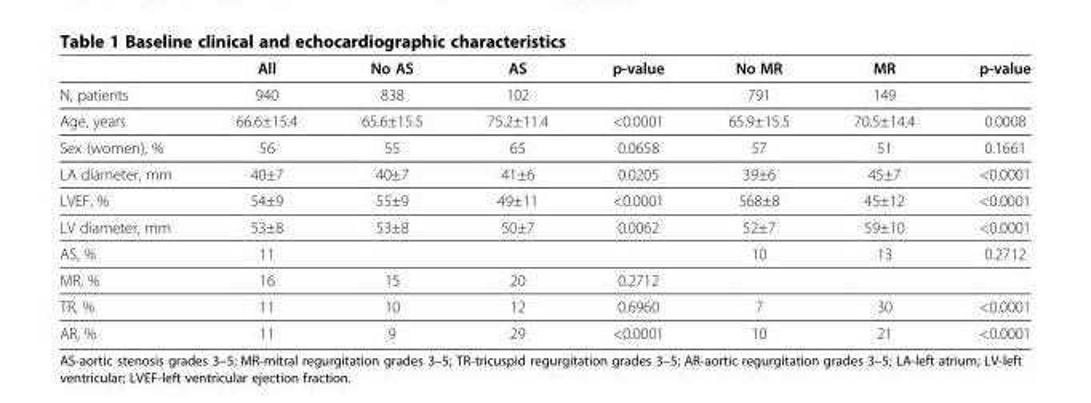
<table><thead><tr><td></td><td>All</td><td>No AS</td><td>AS</td><td>p-value</td><td>No MR</td><td>MR</td><td>p-value</td></tr></thead><tbody><tr><td>N, patients</td><td>940</td><td>838</td><td>102</td><td></td><td>791</td><td>149</td><td></td></tr><tr><td>Age, years</td><td>66.6±15.4</td><td>65.6±15.5</td><td>75.2±11.4</td><td>&lt;0.0001</td><td>65.9±15.5</td><td>70.5±14.4</td><td>0.0008</td></tr><tr><td>Sex (women), %</td><td>56</td><td>55</td><td>65</td><td>0.0658</td><td>57</td><td>51</td><td>0.1661</td></tr><tr><td>LA diameter, mm</td><td>40±7</td><td>40±7</td><td>41±6</td><td>0.0205</td><td>39±6</td><td>45±7</td><td>&lt;0.0001</td></tr><tr><td>LVEF, %</td><td>54±9</td><td>55±9</td><td>49±11</td><td>&lt;0.0001</td><td>568±8</td><td>45±12</td><td>&lt;0.0001</td></tr><tr><td>LV diameter, mm</td><td>53±8</td><td>53±8</td><td>50±7</td><td>0.0062</td><td>52±7</td><td>59±10</td><td>&lt;0.0001</td></tr><tr><td>AS, %</td><td>11</td><td></td><td></td><td></td><td>10</td><td>13</td><td>0.2712</td></tr><tr><td>MR, %</td><td>16</td><td>15</td><td>20</td><td>0.2712</td><td></td><td></td><td></td></tr><tr><td>TR, %</td><td>11</td><td>10</td><td>12</td><td>0.6960</td><td>7</td><td>30</td><td>&lt;0.0001</td></tr><tr><td>AR, %</td><td>11</td><td>9</td><td>29</td><td>&lt;0.0001</td><td>10</td><td>21</td><td>&lt;0.0001</td></tr></tbody></table>